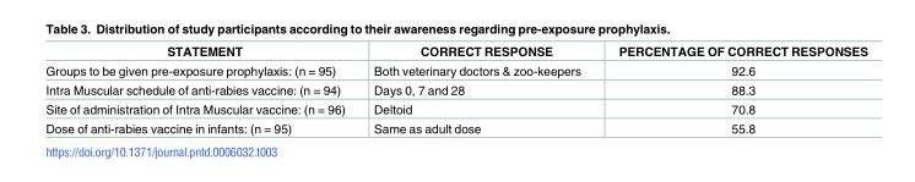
<table><thead><tr><td>STATEMENT</td><td>CORRECT RESPONSE</td><td>PERCENTAGE OF CORRECT RESPONSES</td></tr></thead><tbody><tr><td>Groups to be given pre-exposure prophylaxis: (n = 95)</td><td>Both veterinary doctors &amp; zoo-keepers</td><td>92.6</td></tr><tr><td>Intra Muscular schedule of anti-rabies vaccine: (n = 94)</td><td>Days 0, 7 and 28</td><td>88.3</td></tr><tr><td>Site of administration of Intra Muscular vaccine: (n = 96)</td><td>Deltoid</td><td>70.8</td></tr><tr><td>Dose of anti-rabies vaccine in infants: (n = 95)</td><td>Same as adult dose</td><td>55.8</td></tr></tbody></table>